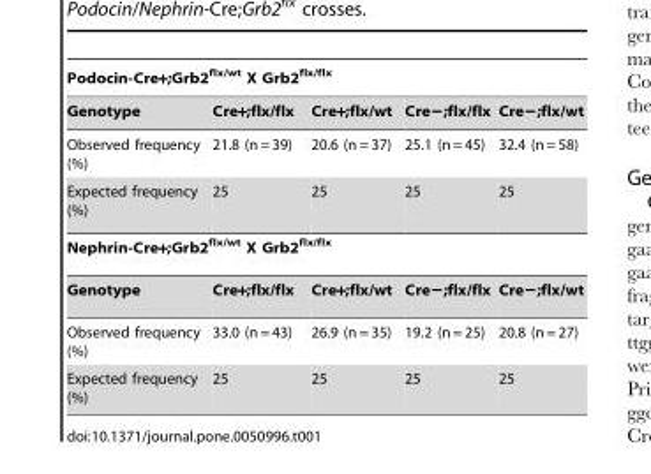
<table><thead><tr><td colspan="5">Podocin-Cre+;Grb2<sup>flx/wt</sup> X Grb2<sup>flx/flx</sup></td></tr><tr><td>Genotype</td><td>Cre+;flx/flx</td><td>Cre+;flx/wt</td><td>Cre−;flx/flx</td><td>Cre−;flx/wt</td></tr></thead><tbody><tr><td>Observed frequency (%)</td><td>21.8 (n = 39)</td><td>20.6 (n = 37)</td><td>25.1 (n = 45)</td><td>32.4 (n = 58)</td></tr><tr><td>Expected frequency (%)</td><td>25</td><td>25</td><td>25</td><td>25</td></tr><tr><td colspan="5">Nephrin-Cre+;Grb2<sup>flx/wt</sup> X Grb2<sup>flx/flx</sup></td></tr><tr><td>Genotype</td><td>Cre+;flx/flx</td><td>Cre+;flx/wt</td><td>Cre−;flx/flx</td><td>Cre−;flx/wt</td></tr><tr><td>Observed frequency (%)</td><td>33.0 (n = 43)</td><td>26.9 (n = 35)</td><td>19.2 (n = 25)</td><td>20.8 (n = 27)</td></tr><tr><td>Expected frequency (%)</td><td>25</td><td>25</td><td>25</td><td>25</td></tr></tbody></table>